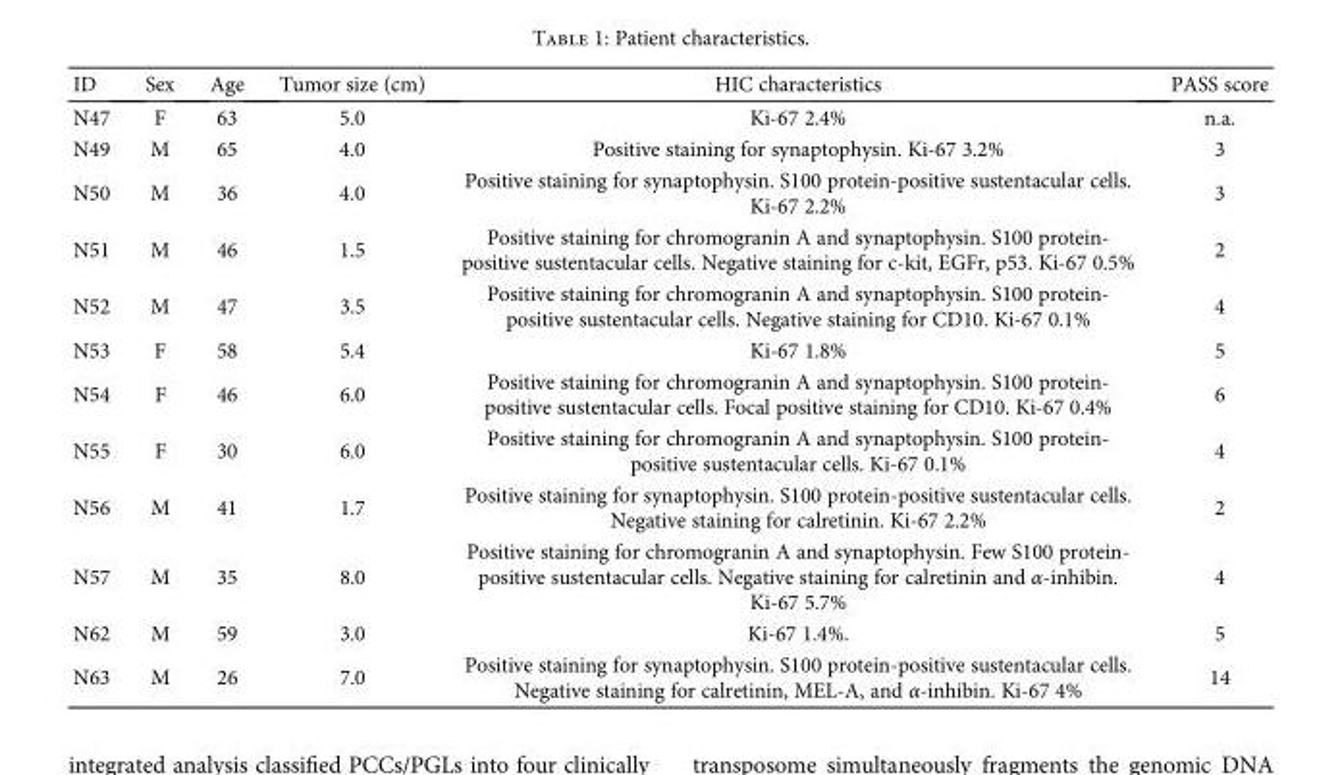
<table><thead><tr><td>ID</td><td>Sex</td><td>Age</td><td>Tumor size (cm)</td><td>HIC characteristics</td><td>PASS score</td></tr></thead><tbody><tr><td>N47</td><td>F</td><td>63</td><td>5.0</td><td>Ki-67 2.4%</td><td>n.a.</td></tr><tr><td>N49</td><td>M</td><td>65</td><td>4.0</td><td>Positive staining for synaptophysin. Ki-67 3.2%</td><td>3</td></tr><tr><td>N50</td><td>M</td><td>36</td><td>4.0</td><td>Positive staining for synaptophysin. S100 protein-positive sustentacular cells. Ki-67 2.2%</td><td>3</td></tr><tr><td>N51</td><td>M</td><td>46</td><td>1.5</td><td>Positive staining for chromogranin A and synaptophysin. S100 protein- positive sustentacular cells. Negative staining for c-kit, EGFr, p53. Ki-67 0.5%</td><td>2</td></tr><tr><td>N52</td><td>M</td><td>47</td><td>3.5</td><td>Positive staining for chromogranin A and synaptophysin. S100 protein- positive sustentacular cells. Negative staining for CD10. Ki-67 0.1%</td><td>4</td></tr><tr><td>N53</td><td>F</td><td>58</td><td>5.4</td><td>Ki-67 1.8%</td><td>5</td></tr><tr><td>N54</td><td>F</td><td>46</td><td>6.0</td><td>Positive staining for chromogranin A and synaptophysin. S100 protein- positive sustentacular cells. Focal positive staining for CD10. Ki-67 0.4%</td><td>6</td></tr><tr><td>N55</td><td>F</td><td>30</td><td>6.0</td><td>Positive staining for chromogranin A and synaptophysin. S100 protein- positive sustentacular cells. Ki-67 0.1%</td><td>4</td></tr><tr><td>N56</td><td>M</td><td>41</td><td>1.7</td><td>Positive staining for synaptophysin. S100 protein-positive sustentacular cells. Negative staining for calretinin. Ki-67 2.2%</td><td>2</td></tr><tr><td>N57</td><td>M</td><td>35</td><td>8.0</td><td>Positive staining for chromogranin A and synaptophysin. Few S100 protein- positive sustentacular cells. Negative staining for calretinin and α-inhibin. Ki-67 5.7%</td><td>4</td></tr><tr><td>N62</td><td>M</td><td>59</td><td>3.0</td><td>Ki-67 1.4%.</td><td>5</td></tr><tr><td>N63</td><td>M</td><td>26</td><td>7.0</td><td>Positive staining for synaptophysin. S100 protein-positive sustentacular cells. Negative staining for calretinin, MEL-A, and α-inhibin. Ki-67 4%</td><td>14</td></tr></tbody></table>